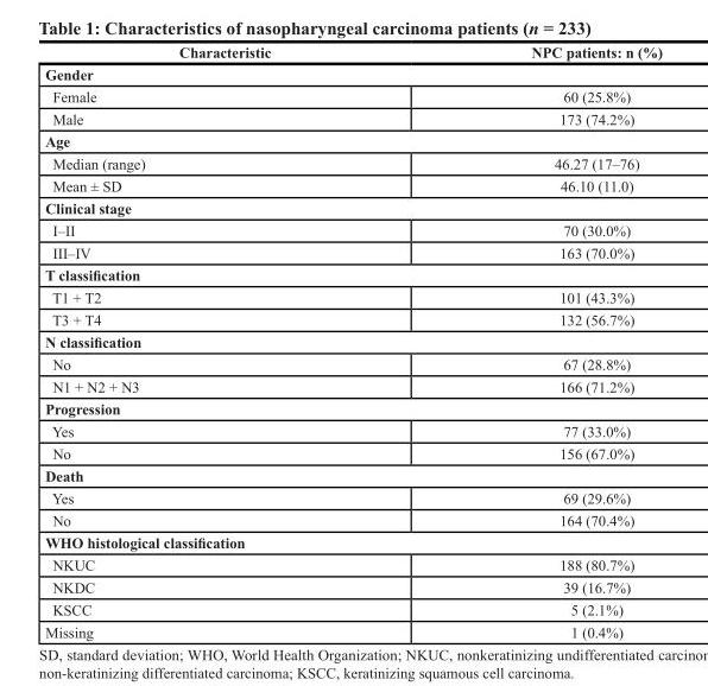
<table><thead><tr><td>Characteristic</td><td>NPC patients: n (%)</td></tr></thead><tbody><tr><td colspan="2">Gender</td></tr><tr><td>Female</td><td>60 (25.8%)</td></tr><tr><td>Male</td><td>173 (74.2%)</td></tr><tr><td colspan="2">Age</td></tr><tr><td>Median (range)</td><td>46.27 (17–76)</td></tr><tr><td>Mean ± SD</td><td>46.10 (11.0)</td></tr><tr><td colspan="2">Clinical stage</td></tr><tr><td>I–II</td><td>70 (30.0%)</td></tr><tr><td>III–IV</td><td>163 (70.0%)</td></tr><tr><td colspan="2">T classification</td></tr><tr><td>T1 + T2</td><td>101 (43.3%)</td></tr><tr><td>T3 + T4</td><td>132 (56.7%)</td></tr><tr><td colspan="2">N classification</td></tr><tr><td>No</td><td>67 (28.8%)</td></tr><tr><td>N1 + N2 + N3</td><td>166 (71.2%)</td></tr><tr><td colspan="2">Progression</td></tr><tr><td>Yes</td><td>77 (33.0%)</td></tr><tr><td>No</td><td>156 (67.0%)</td></tr><tr><td colspan="2">Death</td></tr><tr><td>Yes</td><td>69 (29.6%)</td></tr><tr><td>No</td><td>164 (70.4%)</td></tr><tr><td colspan="2">WHO histological classification</td></tr><tr><td>NKUC</td><td>188 (80.7%)</td></tr><tr><td>NKDC</td><td>39 (16.7%)</td></tr><tr><td>KSCC</td><td>5 (2.1%)</td></tr><tr><td>Missing</td><td>1 (0.4%)</td></tr></tbody></table>